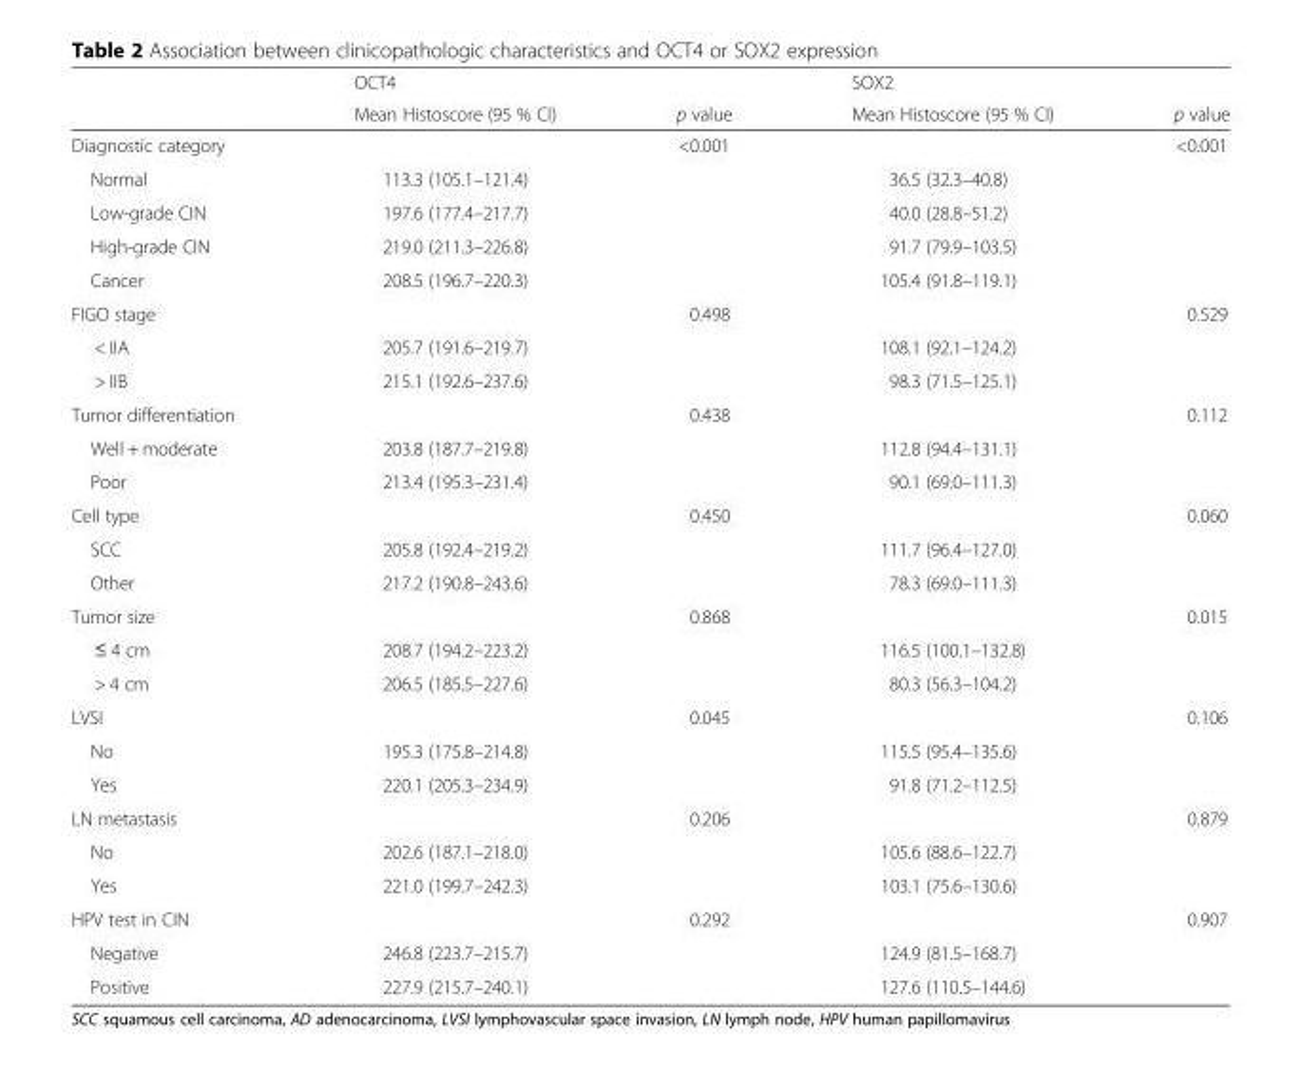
<table><thead><tr><td rowspan="2"></td><td rowspan="2">OCT4 Mean Histoscore (95 % CI)</td><td rowspan="2">p value</td><td rowspan="2">SOX2 Mean Histoscore (95 % CI)</td><td rowspan="2">p value</td></tr><tr></tr></thead><tbody><tr><td>Diagnostic category</td><td></td><td>&lt;0.001</td><td></td><td>&lt;0.001</td></tr><tr><td>Normal</td><td>113.3 (105.1–121.4)</td><td></td><td>36.5 (32.3–40.8)</td><td></td></tr><tr><td>Low-grade CIN</td><td>197.6 (177.4–217.7)</td><td></td><td>40.0 (28.8–51.2)</td><td></td></tr><tr><td>High-grade CIN</td><td>219.0 (211.3–226.8)</td><td></td><td>91.7 (79.9–103.5)</td><td></td></tr><tr><td>Cancer</td><td>208.5 (196.7–220.3)</td><td></td><td>105.4 (91.8–119.1)</td><td></td></tr><tr><td>FIGO stage</td><td></td><td>0.498</td><td></td><td>0.529</td></tr><tr><td>&lt; IIA</td><td>205.7 (191.6–219.7)</td><td></td><td>108.1 (92.1–124.2)</td><td></td></tr><tr><td>&gt; IIB</td><td>215.1 (192.6–237.6)</td><td></td><td>98.3 (71.5–125.1)</td><td></td></tr><tr><td>Tumor differentiation</td><td></td><td>0.438</td><td></td><td>0.112</td></tr><tr><td>Well + moderate</td><td>203.8 (187.7–219.8)</td><td></td><td>112.8 (94.4–131.1)</td><td></td></tr><tr><td>Poor</td><td>213.4 (195.3–231.4)</td><td></td><td>90.1 (69.0–111.3)</td><td></td></tr><tr><td>Cell type</td><td></td><td>0.450</td><td></td><td>0.060</td></tr><tr><td>SCC</td><td>205.8 (192.4–219.2)</td><td></td><td>111.7 (96.4–127.0)</td><td></td></tr><tr><td>Other</td><td>217.2 (190.8–243.6)</td><td></td><td>78.3 (69.0–111.3)</td><td></td></tr><tr><td>Tumor size</td><td></td><td>0.868</td><td></td><td>0.015</td></tr><tr><td>≤ 4 cm</td><td>208.7 (194.2–223.2)</td><td></td><td>116.5 (100.1–132.8)</td><td></td></tr><tr><td>&gt; 4 cm</td><td>206.5 (185.5–227.6)</td><td></td><td>80.3 (56.3–104.2)</td><td></td></tr><tr><td>LVSI</td><td></td><td>0.045</td><td></td><td>0.106</td></tr><tr><td>No</td><td>195.3 (175.8–214.8)</td><td></td><td>115.5 (95.4–135.6)</td><td></td></tr><tr><td>Yes</td><td>220.1 (205.3–234.9)</td><td></td><td>91.8 (71.2–112.5)</td><td></td></tr><tr><td>LN metastasis</td><td></td><td>0.206</td><td></td><td>0.879</td></tr><tr><td>No</td><td>202.6 (187.1–218.0)</td><td></td><td>105.6 (88.6–122.7)</td><td></td></tr><tr><td>Yes</td><td>221.0 (199.7–242.3)</td><td></td><td>103.1 (75.6–130.6)</td><td></td></tr><tr><td>HPV test in CIN</td><td></td><td>0.292</td><td></td><td>0.907</td></tr><tr><td>Negative</td><td>246.8 (223.7–215.7)</td><td></td><td>124.9 (81.5–168.7)</td><td></td></tr><tr><td>Positive</td><td>227.9 (215.7–240.1)</td><td></td><td>127.6 (110.5–144.6)</td><td></td></tr></tbody></table>